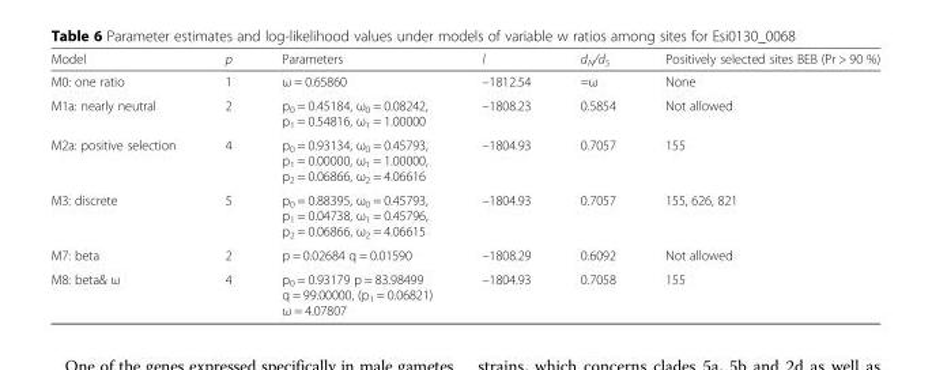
<table><thead><tr><td>Model</td><td>p</td><td>Parameters</td><td>l</td><td>d<sub>N</sub>/d<sub>S</sub></td><td>Positively selected sites BEB (Pr &gt; 90 %)</td></tr></thead><tbody><tr><td>M0: one ratio</td><td>1</td><td>ω = 0.65860</td><td>–1812.54</td><td>=ω</td><td>None</td></tr><tr><td>M1a: nearly neutral</td><td>2</td><td>p<sub>0</sub> = 0.45184, ω<sub>0</sub> = 0.08242, p<sub>1</sub> = 0.54816, ω<sub>1</sub> = 1.00000</td><td>–1808.23</td><td>0.5854</td><td>Not allowed</td></tr><tr><td>M2a: positive selection</td><td>4</td><td>p<sub>0</sub> = 0.93134, ω<sub>0</sub> = 0.45793, p<sub>1</sub> = 0.00000, ω<sub>1</sub> = 1.00000, p<sub>2</sub> = 0.06866, ω<sub>2</sub> = 4.06616</td><td>–1804.93</td><td>0.7057</td><td>155</td></tr><tr><td>M3: discrete</td><td>5</td><td>p<sub>0</sub> = 0.88395, ω<sub>0</sub> = 0.45793, p<sub>1</sub> = 0.04738, ω<sub>1</sub> = 0.45796, p<sub>2</sub> = 0.06866, ω<sub>2</sub> = 4.06615</td><td>–1804.93</td><td>0.7057</td><td>155, 626, 821</td></tr><tr><td>M7: beta</td><td>2</td><td>p = 0.02684 q = 0.01590</td><td>–1808.29</td><td>0.6092</td><td>Not allowed</td></tr><tr><td>M8: beta&amp; ω</td><td>4</td><td>p<sub>0</sub> = 0.93179 p = 83.98499 q = 99.00000, (p<sub>1</sub> = 0.06821) ω = 4.07807</td><td>–1804.93</td><td>0.7058</td><td>155</td></tr></tbody></table>